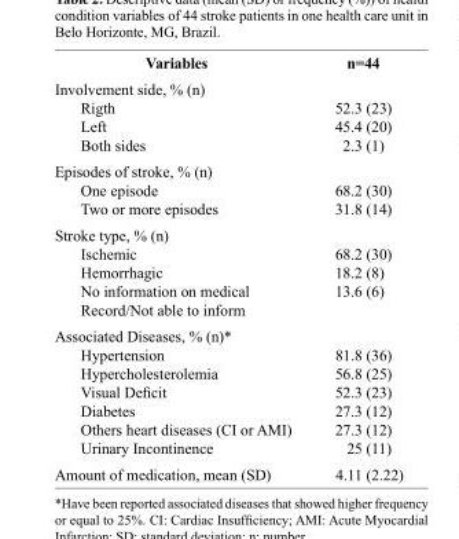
<table><thead><tr><td>Variables</td><td>n=44</td></tr></thead><tbody><tr><td>Involvement side, % (n) Rigth Left Both sides</td><td>52.3 (23) 45.4 (20) 2.3 (1)</td></tr><tr><td>Episodes of stroke, % (n) One episode Two or more episodes</td><td>68.2 (30) 31.8 (14)</td></tr><tr><td>Stroke type, % (n) Ischemic Hemorrhagic No information on medical Record/Not able to inform</td><td>68.2 (30) 18.2 (8) 13.6 (6)</td></tr><tr><td>Associated Diseases, % (n)* Hypertension Hypercholesterolemia Visual Deficit Diabetes Others heart diseases (CI or AMI) Urinary Incontinence</td><td>81.8 (36) 56.8 (25) 52.3 (23) 27.3 (12) 27.3 (12) 25 (11)</td></tr><tr><td>Amount of medication, mean (SD)</td><td>4.11 (2.22)</td></tr></tbody></table>